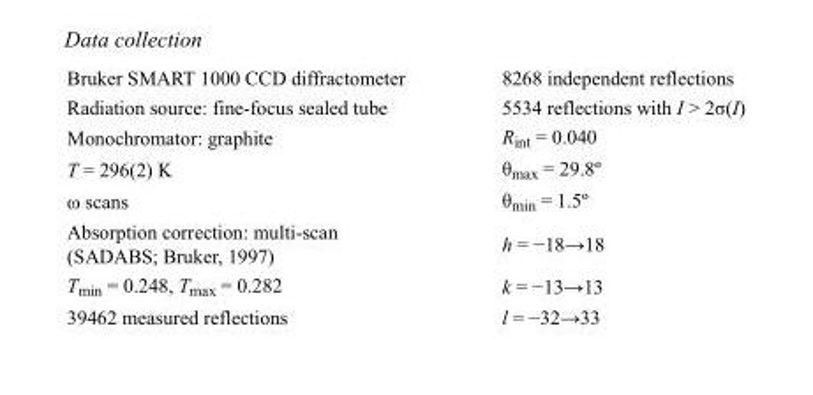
<table><tbody><tr><td>Bruker SMART 1000 CCD diffractometer</td><td>8268 independent reflections</td></tr><tr><td>Radiation source: fine-focus sealed tube</td><td>5534 reflections with I &gt; 2σ(I)</td></tr><tr><td>Monochromator: graphite</td><td>R<sub>int</sub> = 0.040</td></tr><tr><td>T = 296(2) K</td><td>θ<sub>max</sub> = 29.8º</td></tr><tr><td>ω scans</td><td>θ<sub>min</sub> = 1.5º</td></tr><tr><td>Absorption correction: multi-scan (SADABS; Bruker, 1997)</td><td>h = −18→18</td></tr><tr><td>T<sub>min</sub> = 0.248, T<sub>max</sub> = 0.282</td><td>k = −13→13</td></tr><tr><td>39462 measured reflections</td><td>l = −32→33</td></tr></tbody></table>